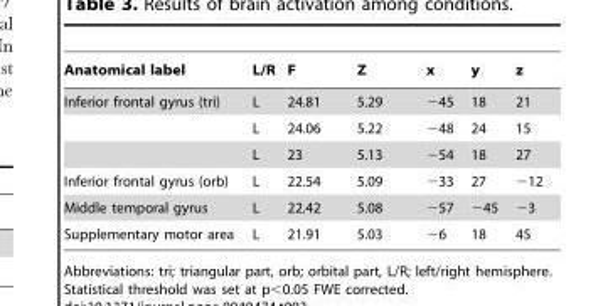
<table><thead><tr><td>Anatomical label</td><td>L/R</td><td>F</td><td>Z</td><td>x</td><td>y</td><td>z</td></tr></thead><tbody><tr><td rowspan="3">Inferior frontal gyrus (tri)</td><td>L</td><td>24.81</td><td>5.29</td><td>−45</td><td>18</td><td>21</td></tr><tr><td>L</td><td>24.06</td><td>5.22</td><td>−48</td><td>24</td><td>15</td></tr><tr><td>L</td><td>23</td><td>5.13</td><td>−54</td><td>18</td><td>27</td></tr><tr><td>Inferior frontal gyrus (orb)</td><td>L</td><td>22.54</td><td>5.09</td><td>−33</td><td>27</td><td>−12</td></tr><tr><td>Middle temporal gyrus</td><td>L</td><td>22.42</td><td>5.08</td><td>−57</td><td>−45</td><td>−3</td></tr><tr><td>Supplementary motor area</td><td>L</td><td>21.91</td><td>5.03</td><td>−6</td><td>18</td><td>45</td></tr></tbody></table>